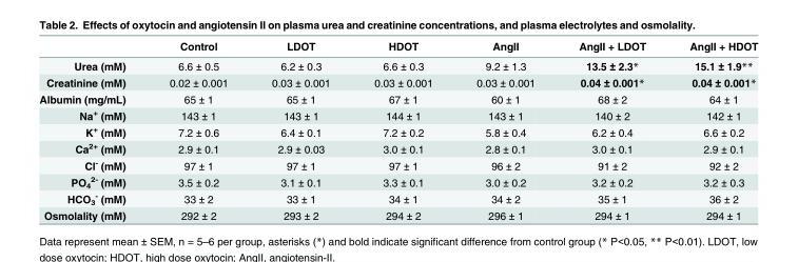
<table><thead><tr><td></td><td>Control</td><td>LDOT</td><td>HDOT</td><td>AngII</td><td>AngII + LDOT</td><td>AngII + HDOT</td></tr></thead><tbody><tr><td>Urea (mM)</td><td>6.6 ± 0.5</td><td>6.2 ± 0.3</td><td>6.6 ± 0.3</td><td>9.2 ± 1.3</td><td>13.5 ± 2.3*</td><td>15.1 ± 1.9**</td></tr><tr><td>Creatinine (mM)</td><td>0.02 ± 0.001</td><td>0.03 ± 0.001</td><td>0.03 ± 0.001</td><td>0.03 ± 0.001</td><td>0.04 ± 0.001*</td><td>0.04 ± 0.001*</td></tr><tr><td>Albumin (mg/mL)</td><td>65 ± 1</td><td>65 ± 1</td><td>67 ± 1</td><td>60 ± 1</td><td>68 ± 2</td><td>64 ± 1</td></tr><tr><td>Na<sup>+</sup> (mM)</td><td>143 ± 1</td><td>143 ± 1</td><td>144 ± 1</td><td>143 ± 1</td><td>140 ± 2</td><td>142 ± 1</td></tr><tr><td>K<sup>+</sup> (mM)</td><td>7.2 ± 0.6</td><td>6.4 ± 0.1</td><td>7.2 ± 0.2</td><td>5.8 ± 0.4</td><td>6.2 ± 0.4</td><td>6.6 ± 0.2</td></tr><tr><td>Ca<sup>2+</sup> (mM)</td><td>2.9 ± 0.1</td><td>2.9 ± 0.03</td><td>3.0 ± 0.1</td><td>2.8 ± 0.1</td><td>3.0 ± 0.1</td><td>2.9 ± 0.1</td></tr><tr><td>Cl<sup>-</sup> (mM)</td><td>97 ± 1</td><td>97 ± 1</td><td>97 ± 1</td><td>96 ± 2</td><td>91 ± 2</td><td>92 ± 2</td></tr><tr><td>PO<sub>4</sub> <sup>2-</sup> (mM)</td><td>3.5 ± 0.2</td><td>3.1 ± 0.1</td><td>3.3 ± 0.1</td><td>3.0 ± 0.2</td><td>3.2 ± 0.2</td><td>3.2 ± 0.3</td></tr><tr><td>HCO<sub>3</sub> <sup>-</sup> (mM)</td><td>33 ± 2</td><td>33 ± 1</td><td>34 ± 1</td><td>34 ± 2</td><td>35 ± 1</td><td>36 ± 2</td></tr><tr><td>Osmolality (mM)</td><td>292 ± 2</td><td>293 ± 2</td><td>294 ± 2</td><td>296 ± 1</td><td>294 ± 1</td><td>294 ± 1</td></tr></tbody></table>